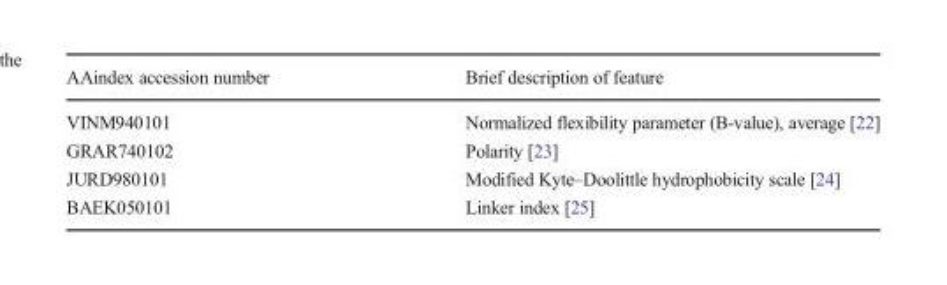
<table><thead><tr><td>AAindex accession number</td><td>Brief description of feature</td></tr></thead><tbody><tr><td>VINM940101</td><td>Normalized flexibility parameter (B-value), average [22]</td></tr><tr><td>GRAR740102</td><td>Polarity [23]</td></tr><tr><td>JURD980101</td><td>Modified Kyte–Doolittle hydrophobicity scale [24]</td></tr><tr><td>BAEK050101</td><td>Linker index [25]</td></tr></tbody></table>